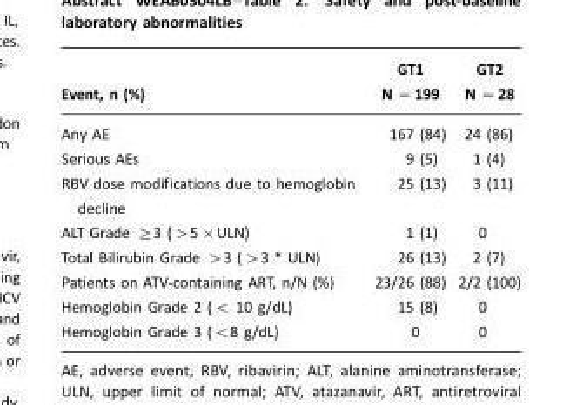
<table><thead><tr><td>Event, n (%)</td><td>GT1 N =199</td><td>GT2 N =28</td></tr></thead><tbody><tr><td>Any AE</td><td>167 (84)</td><td>24 (86)</td></tr><tr><td>Serious AEs</td><td>9 (5)</td><td>1 (4)</td></tr><tr><td>RBV dose modifications due to hemoglobin decline</td><td>25 (13)</td><td>3 (11)</td></tr><tr><td>ALT Grade ≥3 (&gt;5×ULN)</td><td>1 (1)</td><td>0</td></tr><tr><td>Total Bilirubin Grade &gt;3 (&gt;3 * ULN)</td><td>26 (13)</td><td>2 (7)</td></tr><tr><td>Patients on ATV-containing ART, n/N (%)</td><td>23/26 (88)</td><td>2/2 (100)</td></tr><tr><td>Hemoglobin Grade 2 (&lt; 10 g/dL)</td><td>15 (8)</td><td>0</td></tr><tr><td>Hemoglobin Grade 3 (&lt;8 g/dL)</td><td>0</td><td>0</td></tr></tbody></table>